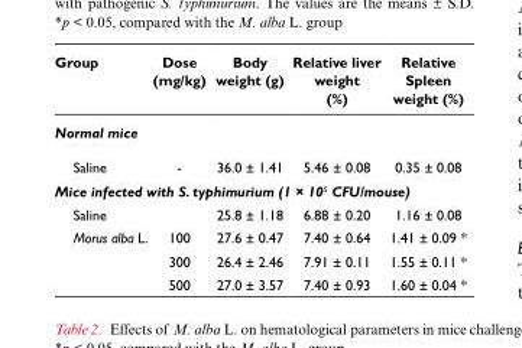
<table><thead><tr><td>Group</td><td>Dose (mg/kg)</td><td>Body weight (g)</td><td>Relative liver weight (%)</td><td>Relative Spleen weight (%)</td></tr></thead><tbody><tr><td colspan="5">Normal mice</td></tr><tr><td>Saline</td><td>-</td><td>36.0 ± 1.41</td><td>5.46 ± 0.08</td><td>0.35 ± 0.08</td></tr><tr><td colspan="5">Mice infected with S. typhimurium (1 × 10<sup>5</sup> CFU/mouse)</td></tr><tr><td>Saline</td><td></td><td>25.8 ± 1.18</td><td>6.88 ± 0.20</td><td>1.16 ± 0.08</td></tr><tr><td rowspan="3">Morus alba L.</td><td>100</td><td>27.6 ± 0.47</td><td>7.40 ± 0.64</td><td>1.41 ± 0.09 *</td></tr><tr><td>300</td><td>26.4 ± 2.46</td><td>7.91 ± 0.11</td><td>1.55 ± 0.11 *</td></tr><tr><td>500</td><td>27.0 ± 3.57</td><td>7.40 ± 0.93</td><td>1.60 ± 0.04 *</td></tr></tbody></table>